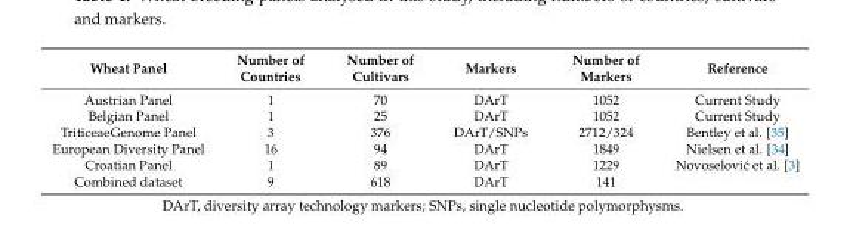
<table><thead><tr><td>Wheat Panel</td><td>Number of Countries</td><td>Number of Cultivars</td><td>Markers</td><td>Number of Markers</td><td>Reference</td></tr></thead><tbody><tr><td>Austrian Panel</td><td>1</td><td>70</td><td>DArT</td><td>1052</td><td>Current Study</td></tr><tr><td>Belgian Panel</td><td>1</td><td>25</td><td>DArT</td><td>1052</td><td>Current Study</td></tr><tr><td>TriticeaeGenome Panel</td><td>3</td><td>376</td><td>DArT/SNPs</td><td>2712/324</td><td>Bentley et al. [35]</td></tr><tr><td>European Diversity Panel</td><td>16</td><td>94</td><td>DArT</td><td>1849</td><td>Nielsen et al. [34]</td></tr><tr><td>Croatian Panel</td><td>1</td><td>89</td><td>DArT</td><td>1229</td><td>Novoselovi´c et al. [3]</td></tr><tr><td>Combined dataset</td><td>9</td><td>618</td><td>DArT</td><td>141</td><td></td></tr></tbody></table>